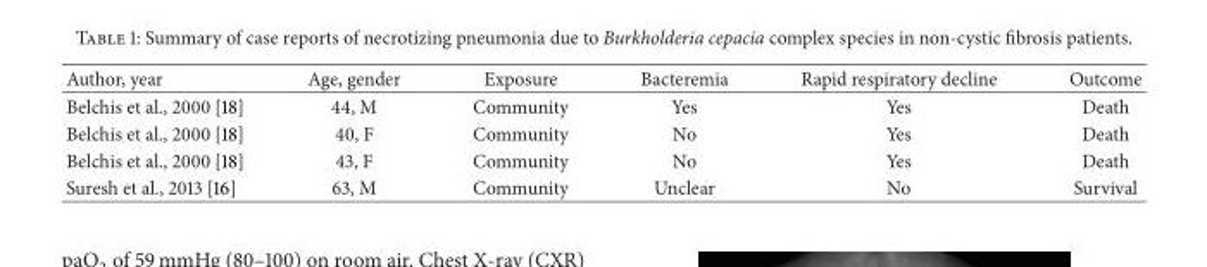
<table><thead><tr><td>Author, year</td><td>Age, gender</td><td>Exposure</td><td>Bacteremia</td><td>Rapid respiratory decline</td><td>Outcome</td></tr></thead><tbody><tr><td>Belchis et al., 2000 [18]</td><td>44, M</td><td>Community</td><td>Yes</td><td>Yes</td><td>Death</td></tr><tr><td>Belchis et al., 2000 [18]</td><td>40, F</td><td>Community</td><td>No</td><td>Yes</td><td>Death</td></tr><tr><td>Belchis et al., 2000 [18]</td><td>43, F</td><td>Community</td><td>No</td><td>Yes</td><td>Death</td></tr><tr><td>Suresh et al., 2013 [16]</td><td>63, M</td><td>Community</td><td>Unclear</td><td>No</td><td>Survival</td></tr></tbody></table>